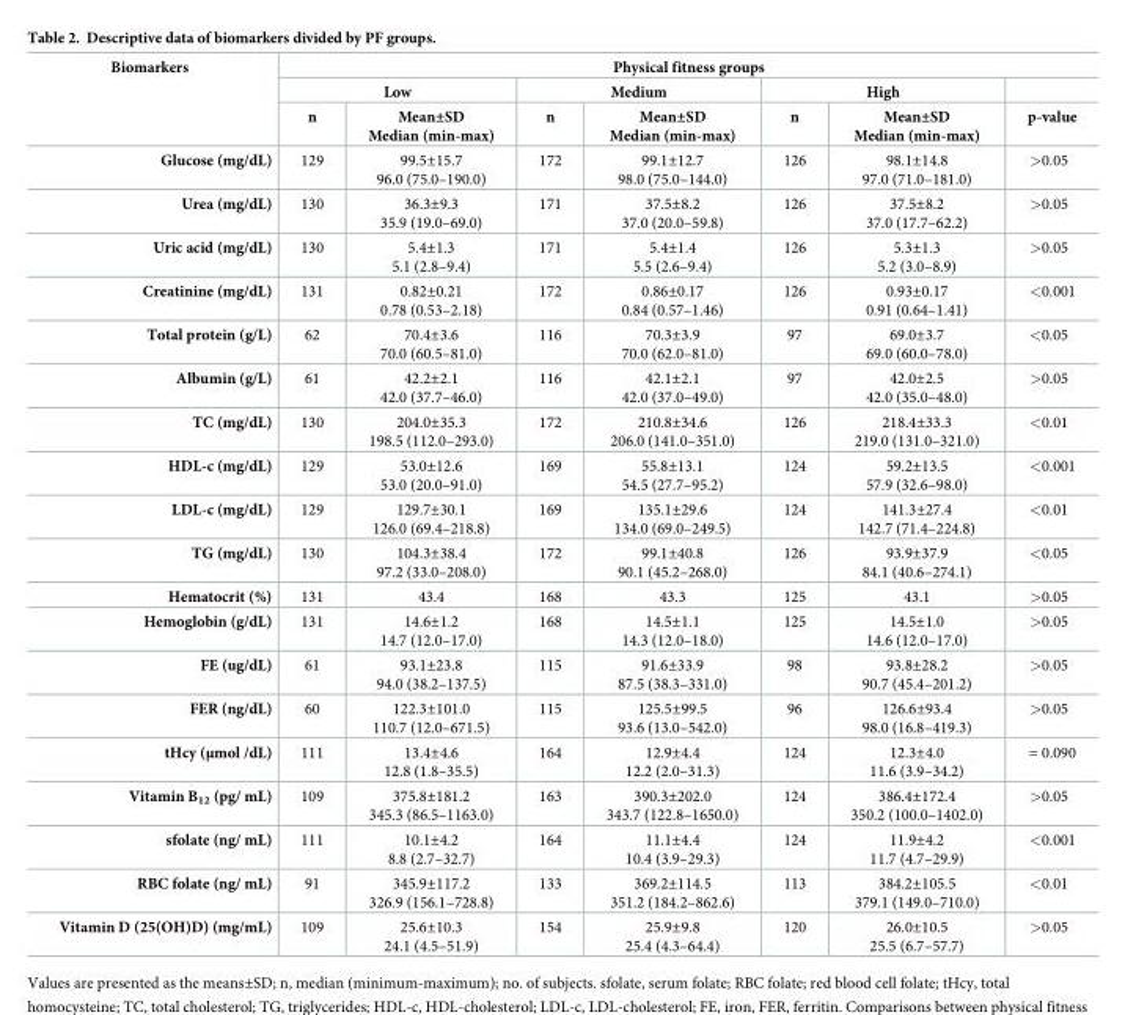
<table><thead><tr><td rowspan="3">Biomarkers</td><td colspan="7">Physical fitness groups</td></tr><tr><td colspan="2">Low</td><td colspan="2">Medium</td><td colspan="2">High</td><td rowspan="2">p-value</td></tr><tr><td>n</td><td>Mean±SD Median (min-max)</td><td>n</td><td>Mean±SD Median (min-max)</td><td>n</td><td>Mean±SD Median (min-max)</td></tr></thead><tbody><tr><td>Glucose (mg/dL)</td><td>129</td><td>99.5±15.7 96.0 (75.0–190.0)</td><td>172</td><td>99.1±12.7 98.0 (75.0–144.0)</td><td>126</td><td>98.1±14.8 97.0 (71.0–181.0)</td><td>&gt;0.05</td></tr><tr><td>Urea (mg/dL)</td><td>130</td><td>36.3±9.3 35.9 (19.0–69.0)</td><td>171</td><td>37.5±8.2 37.0 (20.0–59.8)</td><td>126</td><td>37.5±8.2 37.0 (17.7–62.2)</td><td>&gt;0.05</td></tr><tr><td>Uric acid (mg/dL)</td><td>130</td><td>5.4±1.3 5.1 (2.8–9.4)</td><td>171</td><td>5.4±1.4 5.5 (2.6–9.4)</td><td>126</td><td>5.3±1.3 5.2 (3.0–8.9)</td><td>&gt;0.05</td></tr><tr><td>Creatinine (mg/dL)</td><td>131</td><td>0.82±0.21 0.78 (0.53–2.18)</td><td>172</td><td>0.86±0.17 0.84 (0.57–1.46)</td><td>126</td><td>0.93±0.17 0.91 (0.64–1.41)</td><td>&lt;0.001</td></tr><tr><td>Total protein (g/L)</td><td>62</td><td>70.4±3.6 70.0 (60.5–81.0)</td><td>116</td><td>70.3±3.9 70.0 (62.0–81.0)</td><td>97</td><td>69.0±3.7 69.0 (60.0–78.0)</td><td>&lt;0.05</td></tr><tr><td>Albumin (g/L)</td><td>61</td><td>42.2±2.1 42.0 (37.7–46.0)</td><td>116</td><td>42.1±2.1 42.0 (37.0–49.0)</td><td>97</td><td>42.0±2.5 42.0 (35.0–48.0)</td><td>&gt;0.05</td></tr><tr><td>TC (mg/dL)</td><td>130</td><td>204.0±35.3 198.5 (112.0–293.0)</td><td>172</td><td>210.8±34.6 206.0 (141.0–351.0)</td><td>126</td><td>218.4±33.3 219.0 (131.0–321.0)</td><td>&lt;0.01</td></tr><tr><td>HDL-c (mg/dL)</td><td>129</td><td>53.0±12.6 53.0 (20.0–91.0)</td><td>169</td><td>55.8±13.1 54.5 (27.7–95.2)</td><td>124</td><td>59.2±13.5 57.9 (32.6–98.0)</td><td>&lt;0.001</td></tr><tr><td>LDL-c (mg/dL)</td><td>129</td><td>129.7±30.1 126.0 (69.4–218.8)</td><td>169</td><td>135.1±29.6 134.0 (69.0–249.5)</td><td>124</td><td>141.3±27.4 142.7 (71.4–224.8)</td><td>&lt;0.01</td></tr><tr><td>TG (mg/dL)</td><td>130</td><td>104.3±38.4 97.2 (33.0–208.0)</td><td>172</td><td>99.1±40.8 90.1 (45.2–268.0)</td><td>126</td><td>93.9±37.9 84.1 (40.6–274.1)</td><td>&lt;0.05</td></tr><tr><td>Hematocrit (%)</td><td>131</td><td>43.4</td><td>168</td><td>43.3</td><td>125</td><td>43.1</td><td>&gt;0.05</td></tr><tr><td>Hemoglobin (g/dL)</td><td>131</td><td>14.6±1.2 14.7 (12.0–17.0)</td><td>168</td><td>14.5±1.1 14.3 (12.0–18.0)</td><td>125</td><td>14.5±1.0 14.6 (12.0–17.0)</td><td>&gt;0.05</td></tr><tr><td>FE (ug/dL)</td><td>61</td><td>93.1±23.8 94.0 (38.2–137.5)</td><td>115</td><td>91.6±33.9 87.5 (38.3–331.0)</td><td>98</td><td>93.8±28.2 90.7 (45.4–201.2)</td><td>&gt;0.05</td></tr><tr><td>FER (ng/dL)</td><td>60</td><td>122.3±101.0 110.7 (12.0–671.5)</td><td>115</td><td>125.5±99.5 93.6 (13.0–542.0)</td><td>96</td><td>126.6±93.4 98.0 (16.8–419.3)</td><td>&gt;0.05</td></tr><tr><td>tHcy (μmol /dL)</td><td>111</td><td>13.4±4.6 12.8 (1.8–35.5)</td><td>164</td><td>12.9±4.4 12.2 (2.0–31.3)</td><td>124</td><td>12.3±4.0 11.6 (3.9–34.2)</td><td>= 0.090</td></tr><tr><td>Vitamin B<sub>12</sub> (pg/ mL)</td><td>109</td><td>375.8±181.2 345.3 (86.5–1163.0)</td><td>163</td><td>390.3±202.0 343.7 (122.8–1650.0)</td><td>124</td><td>386.4±172.4 350.2 (100.0–1402.0)</td><td>&gt;0.05</td></tr><tr><td>sfolate (ng/ mL)</td><td>111</td><td>10.1±4.2 8.8 (2.7–32.7)</td><td>164</td><td>11.1±4.4 10.4 (3.9–29.3)</td><td>124</td><td>11.9±4.2 11.7 (4.7–29.9)</td><td>&lt;0.001</td></tr><tr><td>RBC folate (ng/ mL)</td><td>91</td><td>345.9±117.2 326.9 (156.1–728.8)</td><td>133</td><td>369.2±114.5 351.2 (184.2–862.6)</td><td>113</td><td>384.2±105.5 379.1 (149.0–710.0)</td><td>&lt;0.01</td></tr><tr><td>Vitamin D (25(OH)D) (mg/mL)</td><td>109</td><td>25.6±10.3 24.1 (4.5–51.9)</td><td>154</td><td>25.9±9.8 25.4 (4.3–64.4)</td><td>120</td><td>26.0±10.5 25.5 (6.7–57.7)</td><td>&gt;0.05</td></tr></tbody></table>